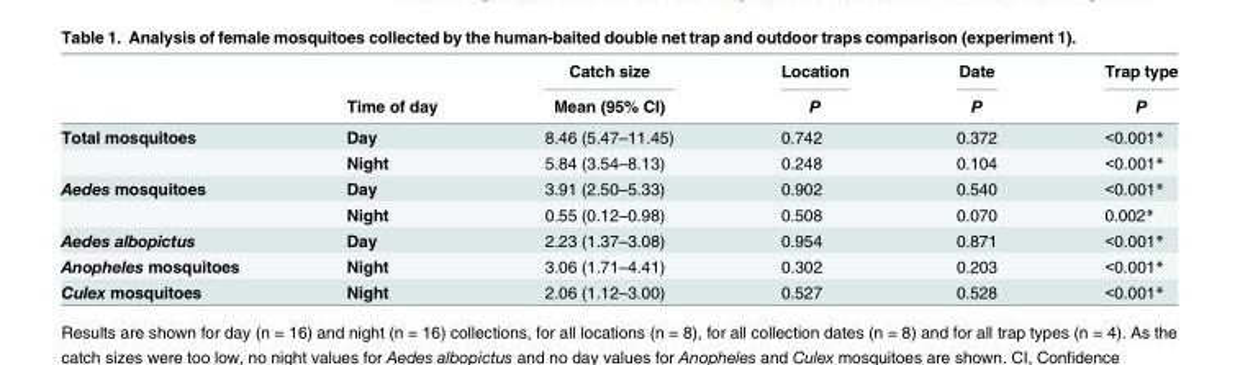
<table><thead><tr><td rowspan="2"></td><td rowspan="2">Time of day</td><td rowspan="2">Catch size Mean (95% CI)</td><td rowspan="2">Location P</td><td rowspan="2">Date P</td><td rowspan="2">Trap type P</td></tr><tr></tr></thead><tbody><tr><td rowspan="2">Total mosquitoes</td><td>Day</td><td>8.46 (5.47–11.45)</td><td>0.742</td><td>0.372</td><td>&lt;0.001*</td></tr><tr><td>Night</td><td>5.84 (3.54–8.13)</td><td>0.248</td><td>0.104</td><td>&lt;0.001*</td></tr><tr><td rowspan="2">Aedes mosquitoes</td><td>Day</td><td>3.91 (2.50–5.33)</td><td>0.902</td><td>0.540</td><td>&lt;0.001*</td></tr><tr><td>Night</td><td>0.55 (0.12–0.98)</td><td>0.508</td><td>0.070</td><td>0.002*</td></tr><tr><td>Aedes albopictus</td><td>Day</td><td>2.23 (1.37–3.08)</td><td>0.954</td><td>0.871</td><td>&lt;0.001*</td></tr><tr><td>Anopheles mosquitoes</td><td>Night</td><td>3.06 (1.71–4.41)</td><td>0.302</td><td>0.203</td><td>&lt;0.001*</td></tr><tr><td>Culex mosquitoes</td><td>Night</td><td>2.06 (1.12–3.00)</td><td>0.527</td><td>0.528</td><td>&lt;0.001*</td></tr></tbody></table>